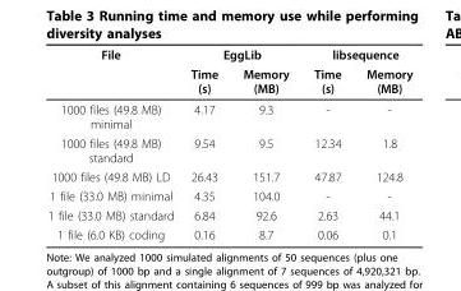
<table><thead><tr><td rowspan="2">File</td><td colspan="2">EggLib</td><td colspan="2">libsequence</td></tr><tr><td>Time (s)</td><td>Memory (MB)</td><td>Time (s)</td><td>Memory (MB)</td></tr></thead><tbody><tr><td>1000 files (49.8 MB) minimal</td><td>4.17</td><td>9.3</td><td>-</td><td>-</td></tr><tr><td>1000 files (49.8 MB) standard</td><td>9.54</td><td>9.5</td><td>12.34</td><td>1.8</td></tr><tr><td>1000 files (49.8 MB) LD</td><td>26.43</td><td>151.7</td><td>47.87</td><td>124.8</td></tr><tr><td>1 file (33.0 MB) minimal</td><td>4.35</td><td>104.0</td><td>-</td><td>-</td></tr><tr><td>1 file (33.0 MB) standard</td><td>6.84</td><td>92.6</td><td>2.63</td><td>44.1</td></tr><tr><td>1 file (6.0 KB) coding</td><td>0.16</td><td>8.7</td><td>0.06</td><td>0.1</td></tr></tbody></table>